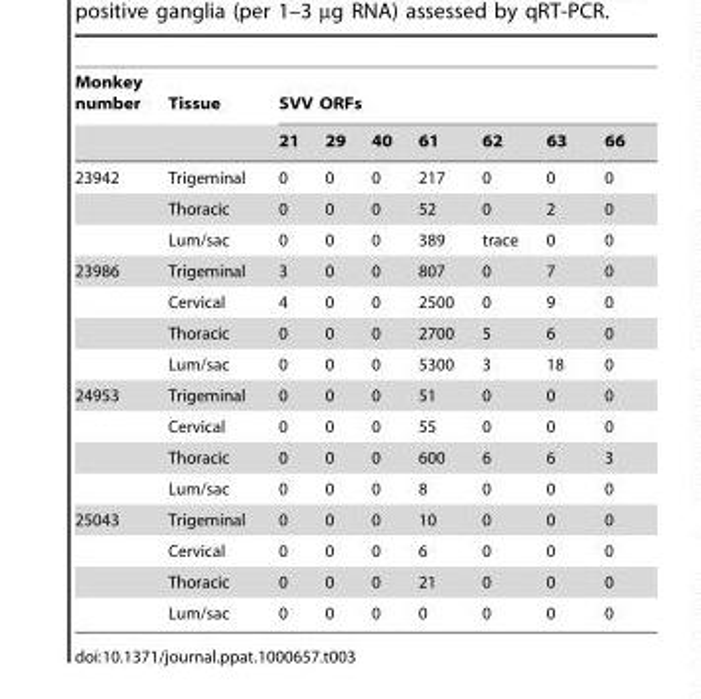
<table><thead><tr><td rowspan="2">Monkey number</td><td rowspan="2">Tissue</td><td colspan="7">SVV ORFs</td></tr><tr><td>21</td><td>29</td><td>40</td><td>61</td><td>62</td><td>63</td><td>66</td></tr></thead><tbody><tr><td rowspan="3">23942</td><td>Trigeminal</td><td>0</td><td>0</td><td>0</td><td>217</td><td>0</td><td>0</td><td>0</td></tr><tr><td>Thoracic</td><td>0</td><td>0</td><td>0</td><td>52</td><td>0</td><td>2</td><td>0</td></tr><tr><td>Lum/sac</td><td>0</td><td>0</td><td>0</td><td>389</td><td>trace</td><td>0</td><td>0</td></tr><tr><td rowspan="4">23986</td><td>Trigeminal</td><td>3</td><td>0</td><td>0</td><td>807</td><td>0</td><td>7</td><td>0</td></tr><tr><td>Cervical</td><td>4</td><td>0</td><td>0</td><td>2500</td><td>0</td><td>9</td><td>0</td></tr><tr><td>Thoracic</td><td>0</td><td>0</td><td>0</td><td>2700</td><td>5</td><td>6</td><td>0</td></tr><tr><td>Lum/sac</td><td>0</td><td>0</td><td>0</td><td>5300</td><td>3</td><td>18</td><td>0</td></tr><tr><td rowspan="4">24953</td><td>Trigeminal</td><td>0</td><td>0</td><td>0</td><td>51</td><td>0</td><td>0</td><td>0</td></tr><tr><td>Cervical</td><td>0</td><td>0</td><td>0</td><td>55</td><td>0</td><td>0</td><td>0</td></tr><tr><td>Thoracic</td><td>0</td><td>0</td><td>0</td><td>600</td><td>6</td><td>6</td><td>3</td></tr><tr><td>Lum/sac</td><td>0</td><td>0</td><td>0</td><td>8</td><td>0</td><td>0</td><td>0</td></tr><tr><td rowspan="4">25043</td><td>Trigeminal</td><td>0</td><td>0</td><td>0</td><td>10</td><td>0</td><td>0</td><td>0</td></tr><tr><td>Cervical</td><td>0</td><td>0</td><td>0</td><td>6</td><td>0</td><td>0</td><td>0</td></tr><tr><td>Thoracic</td><td>0</td><td>0</td><td>0</td><td>21</td><td>0</td><td>0</td><td>0</td></tr><tr><td>Lum/sac</td><td>0</td><td>0</td><td>0</td><td>0</td><td>0</td><td>0</td><td>0</td></tr></tbody></table>